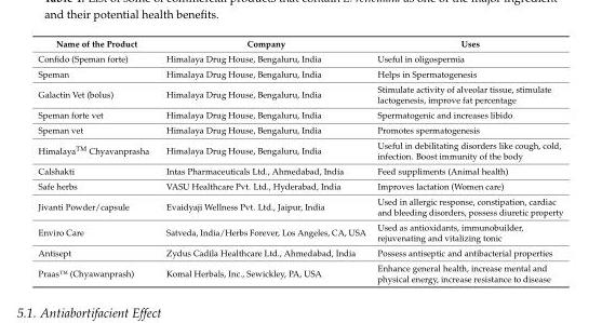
<table><thead><tr><td>Name of the Product</td><td>Company</td><td>Uses</td></tr></thead><tbody><tr><td>Confido (Speman forte)</td><td>Himalaya Drug House, Bengaluru, India</td><td>Useful in oligospermia</td></tr><tr><td>Speman</td><td>Himalaya Drug House, Bengaluru, India</td><td>Helps in Spermatogenesis</td></tr><tr><td>Galactin Vet (bolus)</td><td>Himalaya Drug House, Bengaluru, India</td><td>Stimulate activity of alveolar tissue, stimulate lactogenesis, improve fat percentage</td></tr><tr><td>Speman forte vet</td><td>Himalaya Drug House, Bengaluru, India</td><td>Spermatogenic and increases libido</td></tr><tr><td>Speman vet</td><td>Himalaya Drug House, Bengaluru, India</td><td>Promotes spermatogenesis</td></tr><tr><td>Himalaya<sup>TM</sup> Chyavanprasha</td><td>Himalaya Drug House, Bengaluru, India</td><td>Useful in debilitating disorders like cough, cold, infection. Boost immunity of the body</td></tr><tr><td>Calshakti</td><td>Intas Pharmaceuticals Ltd., Ahmedabad, India</td><td>Feed suppliments (Animal health)</td></tr><tr><td>Safe herbs</td><td>VASU Healthcare Pvt. Ltd., Hyderabad, India</td><td>Improves lactation (Women care)</td></tr><tr><td>Jivanti Powder/capsule</td><td>Evaidyaji Wellness Pvt. Ltd., Jaipur, India</td><td>Used in allergic response, constipation, cardiac and bleeding disorders, possess diuretic property</td></tr><tr><td>Enviro Care</td><td>Satveda, India/Herbs Forever, Los Angeles, CA, USA</td><td>Used as antioxidants, immunobuilder, rejuvenating and vitalizing tonic</td></tr><tr><td>Antisept</td><td>Zydus Cadila Healthcare Ltd., Ahmedabad, India</td><td>Possess antiseptic and antibacterial properties</td></tr><tr><td>Praas™ (Chyawanprash)</td><td>Komal Herbals, Inc., Sewickley, PA, USA</td><td>Enhance general health, increase mental and physical energy, increase resistance to disease</td></tr></tbody></table>